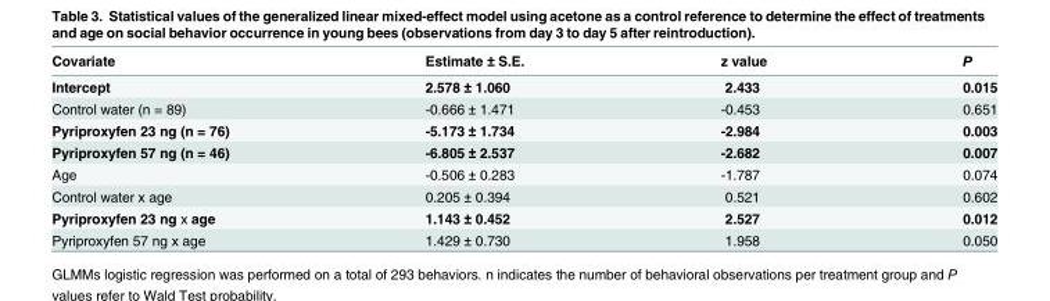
<table><thead><tr><td>Covariate</td><td>Estimate ± S.E.</td><td>z value</td><td>P</td></tr></thead><tbody><tr><td>Intercept</td><td>2.578 ± 1.060</td><td>2.433</td><td>0.015</td></tr><tr><td>Control water (n = 89)</td><td>-0.666 ± 1.471</td><td>-0.453</td><td>0.651</td></tr><tr><td>Pyriproxyfen 23 ng (n = 76)</td><td>-5.173 ± 1.734</td><td>-2.984</td><td>0.003</td></tr><tr><td>Pyriproxyfen 57 ng (n = 46)</td><td>-6.805 ± 2.537</td><td>-2.682</td><td>0.007</td></tr><tr><td>Age</td><td>-0.506 ± 0.283</td><td>-1.787</td><td>0.074</td></tr><tr><td>Control water x age</td><td>0.205 ± 0.394</td><td>0.521</td><td>0.602</td></tr><tr><td>Pyriproxyfen 23 ng x age</td><td>1.143 ± 0.452</td><td>2.527</td><td>0.012</td></tr><tr><td>Pyriproxyfen 57 ng x age</td><td>1.429 ± 0.730</td><td>1.958</td><td>0.050</td></tr></tbody></table>